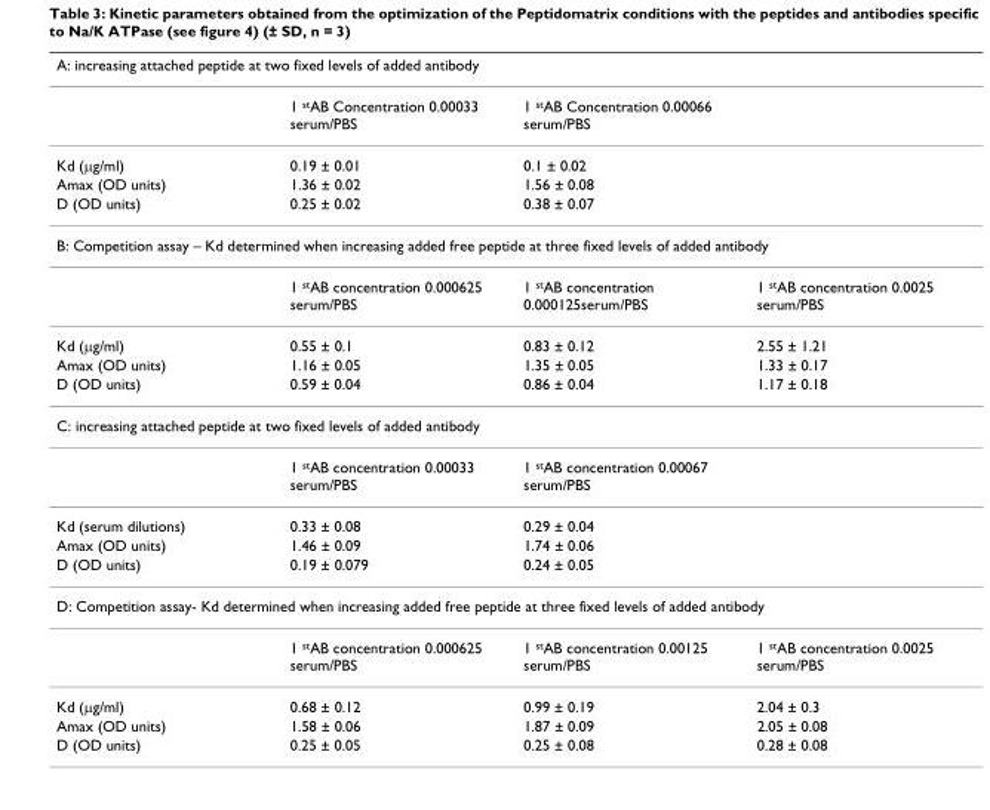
<table><thead><tr><td colspan="4">A: increasing attached peptide at two fixed levels of added antibody</td></tr><tr><td></td><td>1 <sup>st</sup>AB Concentration 0.00033 serum/PBS</td><td>1 <sup>st</sup>AB Concentration 0.00066 serum/PBS</td><td></td></tr></thead><tbody><tr><td>Kd (µg/ml)</td><td>0.19 ± 0.01</td><td>0.1 ± 0.02</td><td></td></tr><tr><td>Amax (OD units)</td><td>1.36 ± 0.02</td><td>1.56 ± 0.08</td><td></td></tr><tr><td>D (OD units)</td><td>0.25 ± 0.02</td><td>0.38 ± 0.07</td><td></td></tr><tr><td colspan="4">B: Competition assay – Kd determined when increasing added free peptide at three fixed levels of added antibody</td></tr><tr><td></td><td>1 <sup>st</sup>AB concentration 0.000625 serum/PBS</td><td>1 <sup>st</sup>AB concentration 0.000125serum/PBS</td><td>1 <sup>st</sup>AB concentration 0.0025 serum/PBS</td></tr><tr><td>Kd (µg/ml)</td><td>0.55 ± 0.1</td><td>0.83 ± 0.12</td><td>2.55 ± 1.21</td></tr><tr><td>Amax (OD units)</td><td>1.16 ± 0.05</td><td>1.35 ± 0.05</td><td>1.33 ± 0.17</td></tr><tr><td>D (OD units)</td><td>0.59 ± 0.04</td><td>0.86 ± 0.04</td><td>1.17 ± 0.18</td></tr><tr><td colspan="4">C: increasing attached peptide at two fixed levels of added antibody</td></tr><tr><td></td><td>1 <sup>st</sup>AB concentration 0.00033 serum/PBS</td><td>1 <sup>st</sup>AB concentration 0.00067 serum/PBS</td><td></td></tr><tr><td>Kd (serum dilutions)</td><td>0.33 ± 0.08</td><td>0.29 ± 0.04</td><td></td></tr><tr><td>Amax (OD units)</td><td>1.46 ± 0.09</td><td>1.74 ± 0.06</td><td></td></tr><tr><td>D (OD units)</td><td>0.19 ± 0.079</td><td>0.24 ± 0.05</td><td></td></tr><tr><td colspan="4">D: Competition assay- Kd determined when increasing added free peptide at three fixed levels of added antibody</td></tr><tr><td></td><td>1 <sup>st</sup>AB concentration 0.000625 serum/PBS</td><td>1 <sup>st</sup>AB concentration 0.00125 serum/PBS</td><td>1 <sup>st</sup>AB concentration 0.0025 serum/PBS</td></tr><tr><td>Kd (µg/ml)</td><td>0.68 ± 0.12</td><td>0.99 ± 0.19</td><td>2.04 ± 0.3</td></tr><tr><td>Amax (OD units)</td><td>1.58 ± 0.06</td><td>1.87 ± 0.09</td><td>2.05 ± 0.08</td></tr><tr><td>D (OD units)</td><td>0.25 ± 0.05</td><td>0.25 ± 0.08</td><td>0.28 ± 0.08</td></tr></tbody></table>